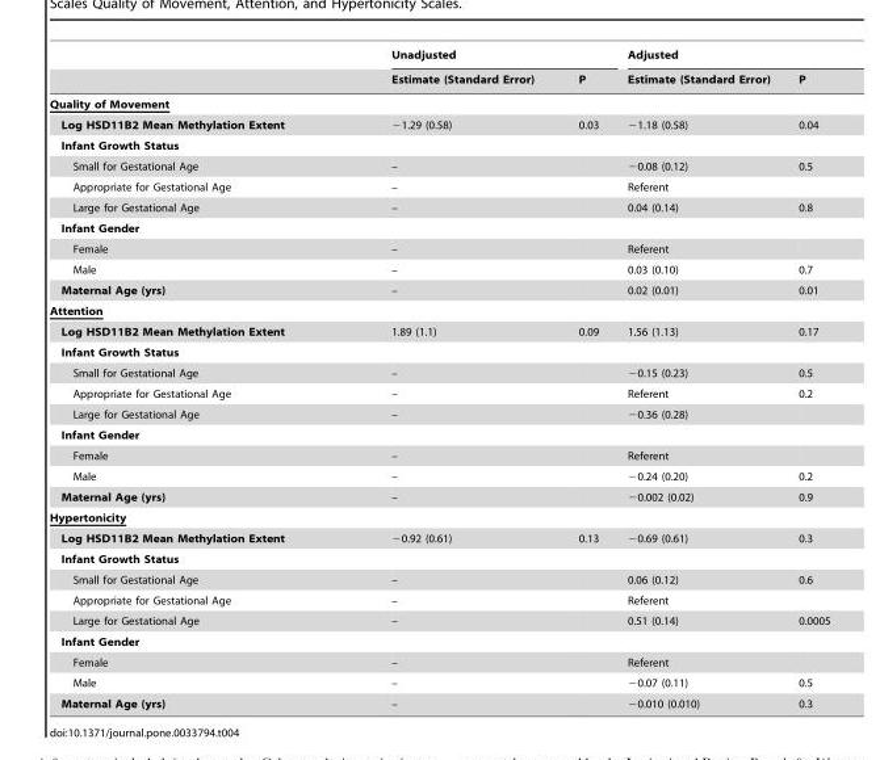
<table><thead><tr><td rowspan="2"></td><td colspan="2">Unadjusted</td><td colspan="2">Adjusted</td></tr><tr><td>Estimate (Standard Error)</td><td>P</td><td>Estimate (Standard Error)</td><td>P</td></tr></thead><tbody><tr><td colspan="5">Quality of Movement</td></tr><tr><td>Log HSD11B2 Mean Methylation Extent</td><td>−1.29 (0.58)</td><td>0.03</td><td>−1.18 (0.58)</td><td>0.04</td></tr><tr><td colspan="5">Infant Growth Status</td></tr><tr><td>Small for Gestational Age</td><td>–</td><td></td><td>−0.08 (0.12)</td><td>0.5</td></tr><tr><td>Appropriate for Gestational Age</td><td>–</td><td></td><td>Referent</td><td></td></tr><tr><td>Large for Gestational Age</td><td>–</td><td></td><td>0.04 (0.14)</td><td>0.8</td></tr><tr><td colspan="5">Infant Gender</td></tr><tr><td>Female</td><td>–</td><td></td><td>Referent</td><td></td></tr><tr><td>Male</td><td>–</td><td></td><td>0.03 (0.10)</td><td>0.7</td></tr><tr><td>Maternal Age (yrs)</td><td>–</td><td></td><td>0.02 (0.01)</td><td>0.01</td></tr><tr><td colspan="5">Attention</td></tr><tr><td>Log HSD11B2 Mean Methylation Extent</td><td>1.89 (1.1)</td><td>0.09</td><td>1.56 (1.13)</td><td>0.17</td></tr><tr><td colspan="5">Infant Growth Status</td></tr><tr><td>Small for Gestational Age</td><td>–</td><td></td><td>−0.15 (0.23)</td><td>0.5</td></tr><tr><td>Appropriate for Gestational Age</td><td>–</td><td></td><td>Referent</td><td>0.2</td></tr><tr><td>Large for Gestational Age</td><td>–</td><td></td><td>−0.36 (0.28)</td><td></td></tr><tr><td colspan="5">Infant Gender</td></tr><tr><td>Female</td><td>–</td><td></td><td>Referent</td><td></td></tr><tr><td>Male</td><td>–</td><td></td><td>−0.24 (0.20)</td><td>0.2</td></tr><tr><td>Maternal Age (yrs)</td><td>–</td><td></td><td>−0.002 (0.02)</td><td>0.9</td></tr><tr><td colspan="5">Hypertonicity</td></tr><tr><td>Log HSD11B2 Mean Methylation Extent</td><td>−0.92 (0.61)</td><td>0.13</td><td>−0.69 (0.61)</td><td>0.3</td></tr><tr><td colspan="5">Infant Growth Status</td></tr><tr><td>Small for Gestational Age</td><td>–</td><td></td><td>0.06 (0.12)</td><td>0.6</td></tr><tr><td>Appropriate for Gestational Age</td><td>–</td><td></td><td>Referent</td><td></td></tr><tr><td>Large for Gestational Age</td><td>–</td><td></td><td>0.51 (0.14)</td><td>0.0005</td></tr><tr><td colspan="5">Infant Gender</td></tr><tr><td>Female</td><td>–</td><td></td><td>Referent</td><td></td></tr><tr><td>Male</td><td>–</td><td></td><td>−0.07 (0.11)</td><td>0.5</td></tr><tr><td>Maternal Age (yrs)</td><td>–</td><td></td><td>−0.010 (0.010)</td><td>0.3</td></tr></tbody></table>